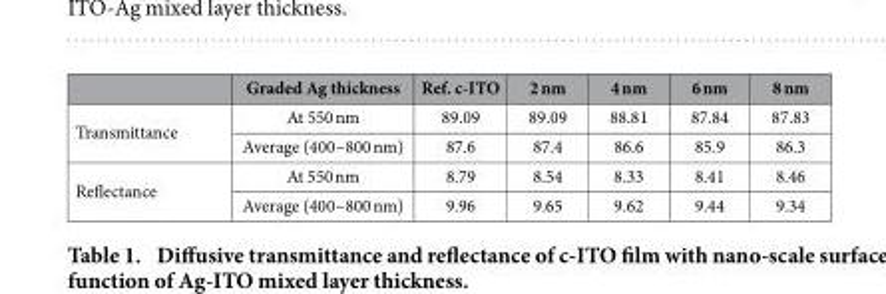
<table><thead><tr><td></td><td>Graded Ag thickness</td><td>Ref. c-ITO</td><td>2 nm</td><td>4 nm</td><td>6 nm</td><td>8 nm</td></tr></thead><tbody><tr><td rowspan="2">Transmittance</td><td>At 550 nm</td><td>89.09</td><td>89.09</td><td>88.81</td><td>87.84</td><td>87.83</td></tr><tr><td>Average (400~800 nm)</td><td>87.6</td><td>87.4</td><td>86.6</td><td>85.9</td><td>86.3</td></tr><tr><td rowspan="2">Reflectance</td><td>At 550 nm</td><td>8.79</td><td>8.54</td><td>8.33</td><td>8.41</td><td>8.46</td></tr><tr><td>Average (400~800 nm)</td><td>9.96</td><td>9.65</td><td>9.62</td><td>9.44</td><td>9.34</td></tr></tbody></table>